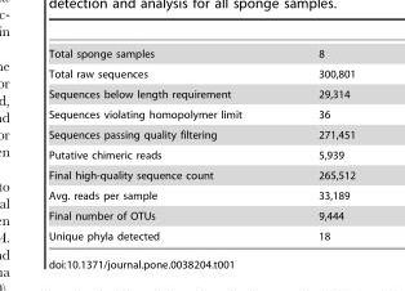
<table><tbody><tr><td>Total sponge samples</td><td>8</td></tr><tr><td>Total raw sequences</td><td>300,801</td></tr><tr><td>Sequences below length requirement</td><td>29,314</td></tr><tr><td>Sequences violating homopolymer limit</td><td>36</td></tr><tr><td>Sequences passing quality filtering</td><td>271,451</td></tr><tr><td>Putative chimeric reads</td><td>5,939</td></tr><tr><td>Final high-quality sequence count</td><td>265,512</td></tr><tr><td>Avg. reads per sample</td><td>33,189</td></tr><tr><td>Final number of OTUs</td><td>9,444</td></tr><tr><td>Unique phyla detected</td><td>18</td></tr></tbody></table>